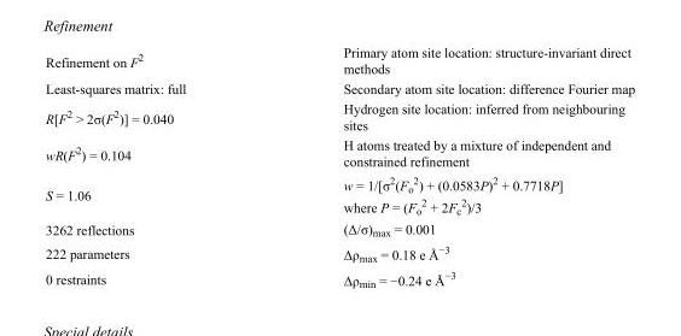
<table><tbody><tr><td>Refinement on F<sup>2</sup></td><td>Primary atom site location: structure-invariant direct methods</td></tr><tr><td>Least-squares matrix: full</td><td>Secondary atom site location: difference Fourier map</td></tr><tr><td>R[F<sup>2</sup> &gt; 2σ(F<sup>2</sup>)] = 0.040</td><td>Hydrogen site location: inferred from neighbouring sites</td></tr><tr><td>wR(F<sup>2</sup>) = 0.104</td><td>H atoms treated by a mixture of independent and constrained refinement</td></tr><tr><td>S = 1.06</td><td>w = 1/[σ<sup>2</sup>(F<sub>o</sub> <sup>2</sup>) + (0.0583P)<sup>2</sup> + 0.7718P] where P = (F<sub>o</sub> <sup>2</sup> + 2F<sub>c</sub> <sup>2</sup>)/3</td></tr><tr><td>3262 reflections</td><td>(Δ/σ)<sub>max</sub> = 0.001</td></tr><tr><td>222 parameters</td><td>Δρ<sub>max</sub> = 0.18 e Å<sup>−3</sup></td></tr><tr><td>0 restraints</td><td>Δρ<sub>min</sub> = −0.24 e Å<sup>−3</sup></td></tr></tbody></table>